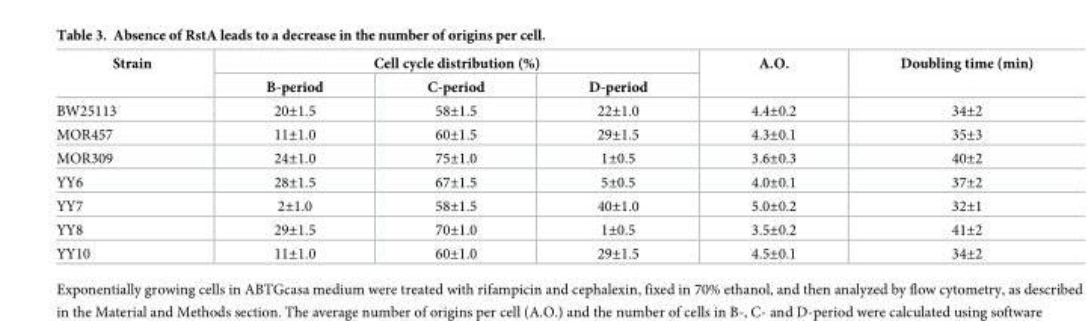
<table><thead><tr><td rowspan="2">Strain</td><td colspan="3">Cell cycle distribution (%)</td><td rowspan="2">A.O.</td><td rowspan="2">Doubling time (min)</td></tr><tr><td>B-period</td><td>C-period</td><td>D-period</td></tr></thead><tbody><tr><td>BW25113</td><td>20±1.5</td><td>58±1.5</td><td>22±1.0</td><td>4.4±0.2</td><td>34±2</td></tr><tr><td>MOR457</td><td>11±1.0</td><td>60±1.5</td><td>29±1.5</td><td>4.3±0.1</td><td>35±3</td></tr><tr><td>MOR309</td><td>24±1.0</td><td>75±1.0</td><td>1±0.5</td><td>3.6±0.3</td><td>40±2</td></tr><tr><td>YY6</td><td>28±1.5</td><td>67±1.5</td><td>5±0.5</td><td>4.0±0.1</td><td>37±2</td></tr><tr><td>YY7</td><td>2±1.0</td><td>58±1.5</td><td>40±1.0</td><td>5.0±0.2</td><td>32±1</td></tr><tr><td>YY8</td><td>29±1.5</td><td>70±1.0</td><td>1±0.5</td><td>3.5±0.2</td><td>41±2</td></tr><tr><td>YY10</td><td>11±1.0</td><td>60±1.0</td><td>29±1.5</td><td>4.5±0.1</td><td>34±2</td></tr></tbody></table>